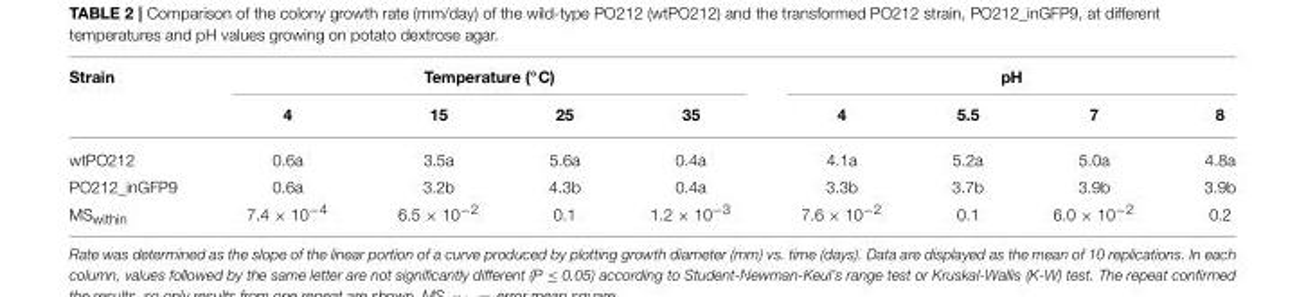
<table><thead><tr><td rowspan="2">Strain</td><td colspan="4">Temperature (◦C)</td><td colspan="4">pH</td></tr><tr><td>4</td><td>15</td><td>25</td><td>35</td><td>4</td><td>5.5</td><td>7</td><td>8</td></tr></thead><tbody><tr><td>wtPO212</td><td>0.6a</td><td>3.5a</td><td>5.6a</td><td>0.4a</td><td>4.1a</td><td>5.2a</td><td>5.0a</td><td>4.8a</td></tr><tr><td>PO212_inGFP9</td><td>0.6a</td><td>3.2b</td><td>4.3b</td><td>0.4a</td><td>3.3b</td><td>3.7b</td><td>3.9b</td><td>3.9b</td></tr><tr><td>MS<sub>within</sub></td><td>7.4 × 10<sup>−4</sup></td><td>6.5 × 10<sup>−2</sup></td><td>0.1</td><td>1.2 × 10<sup>−3</sup></td><td>7.6 × 10<sup>−2</sup></td><td>0.1</td><td>6.0 × 10<sup>−2</sup></td><td>0.2</td></tr></tbody></table>